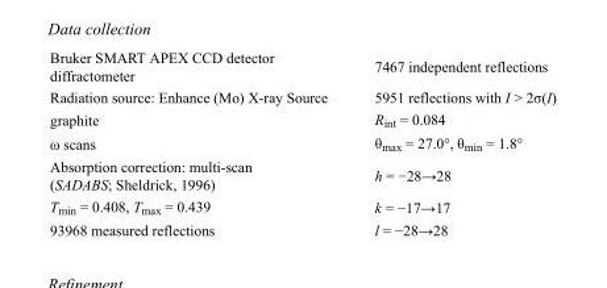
<table><tbody><tr><td>Bruker SMART APEX CCD detector diffractometer</td><td>7467 independent reflections</td></tr><tr><td>Radiation source: Enhance (Mo) X-ray Source</td><td>5951 reflections with I &gt; 2σ(I)</td></tr><tr><td>graphite</td><td>R<sub>int</sub> = 0.084</td></tr><tr><td>ω scans</td><td>θ<sub>max</sub> = 27.0°, θ<sub>min</sub> = 1.8°</td></tr><tr><td>Absorption correction: multi-scan (SADABS; Sheldrick, 1996)</td><td>h = −28→28</td></tr><tr><td>T<sub>min</sub> = 0.408, T<sub>max</sub> = 0.439</td><td>k = −17→17</td></tr><tr><td>93968 measured reflections</td><td>l = −28→28</td></tr></tbody></table>